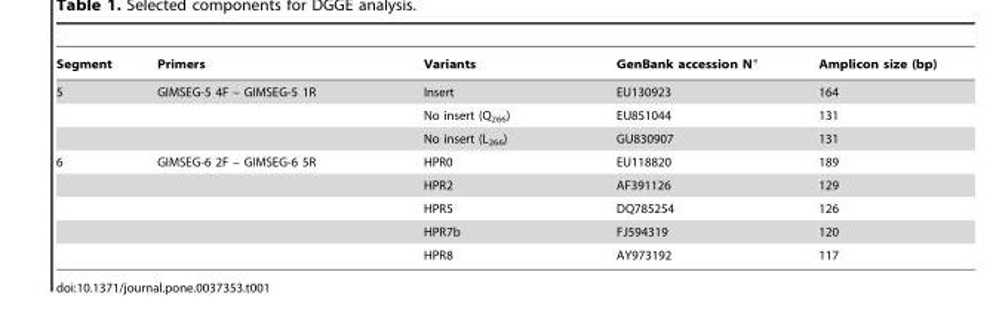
<table><thead><tr><td>Segment</td><td>Primers</td><td>Variants</td><td>GenBank accession N°</td><td>Amplicon size (bp)</td></tr></thead><tbody><tr><td rowspan="3">5</td><td>GIMSEG-5 4F – GIMSEG-5 1R</td><td>Insert</td><td>EU130923</td><td>164</td></tr><tr><td></td><td>No insert (Q<sub>266</sub>)</td><td>EU851044</td><td>131</td></tr><tr><td></td><td>No insert (L<sub>266</sub>)</td><td>GU830907</td><td>131</td></tr><tr><td rowspan="5">6</td><td>GIMSEG-6 2F – GIMSEG-6 5R</td><td>HPR0</td><td>EU118820</td><td>189</td></tr><tr><td></td><td>HPR2</td><td>AF391126</td><td>129</td></tr><tr><td></td><td>HPR5</td><td>DQ785254</td><td>126</td></tr><tr><td></td><td>HPR7b</td><td>FJ594319</td><td>120</td></tr><tr><td></td><td>HPR8</td><td>AY973192</td><td>117</td></tr></tbody></table>